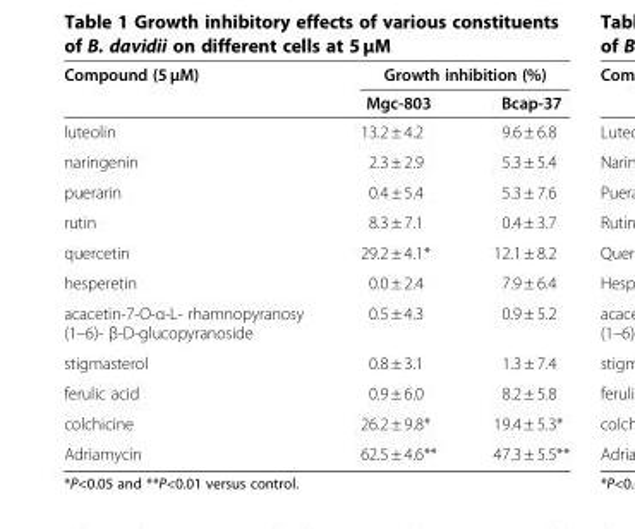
<table><thead><tr><td rowspan="2">Compound (5 μM)</td><td colspan="2">Growth inhibition (%)</td></tr><tr><td>Mgc-803</td><td>Bcap-37</td></tr></thead><tbody><tr><td>luteolin</td><td>13.2 ± 4.2</td><td>9.6 ± 6.8</td></tr><tr><td>naringenin</td><td>2.3 ± 2.9</td><td>5.3 ± 5.4</td></tr><tr><td>puerarin</td><td>0.4 ± 5.4</td><td>5.3 ± 7.6</td></tr><tr><td>rutin</td><td>8.3 ± 7.1</td><td>0.4 ± 3.7</td></tr><tr><td>quercetin</td><td>29.2 ± 4.1*</td><td>12.1 ± 8.2</td></tr><tr><td>hesperetin</td><td>0.0 ± 2.4</td><td>7.9 ± 6.4</td></tr><tr><td>acacetin-7-O-α-L- rhamnopyranosy (1–6)- β-D-glucopyranoside</td><td>0.5 ± 4.3</td><td>0.9 ± 5.2</td></tr><tr><td>stigmasterol</td><td>0.8 ± 3.1</td><td>1.3 ± 7.4</td></tr><tr><td>ferulic acid</td><td>0.9 ± 6.0</td><td>8.2 ± 5.8</td></tr><tr><td>colchicine</td><td>26.2 ± 9.8*</td><td>19.4 ± 5.3*</td></tr><tr><td>Adriamycin</td><td>62.5 ± 4.6**</td><td>47.3 ± 5.5**</td></tr></tbody></table>